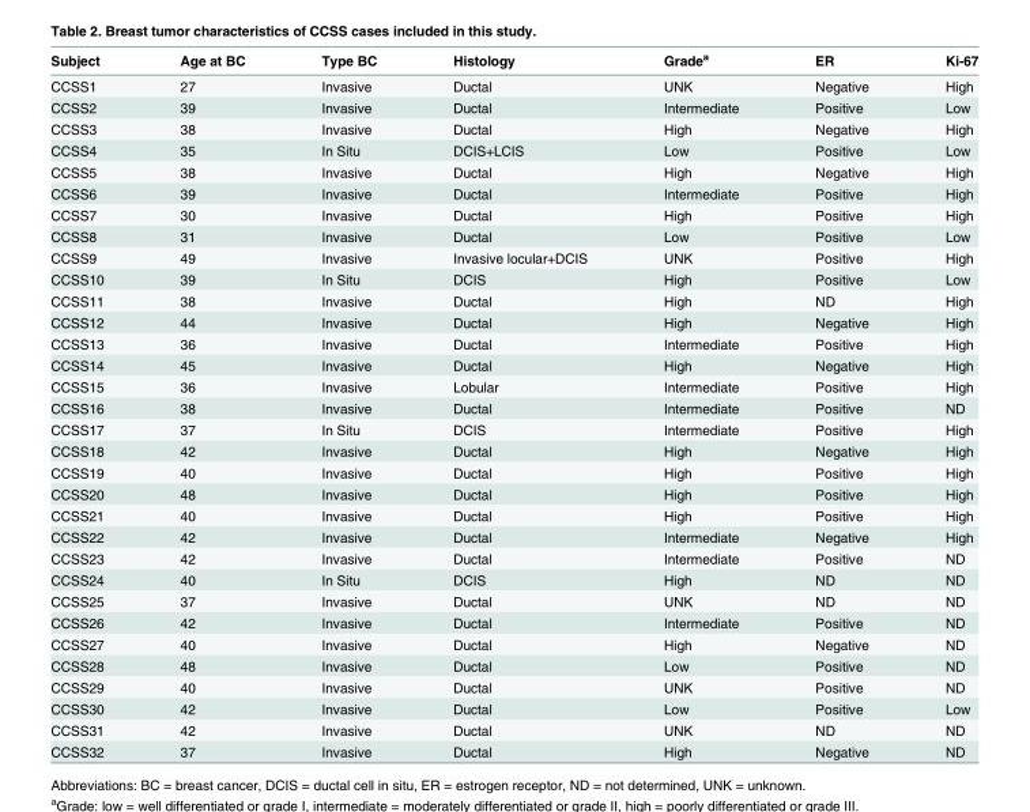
<table><thead><tr><td>Subject</td><td>Age at BC</td><td>Type BC</td><td>Histology</td><td>Grade<sup>a</sup></td><td>ER</td><td>Ki-67</td></tr></thead><tbody><tr><td>CCSS1</td><td>27</td><td>Invasive</td><td>Ductal</td><td>UNK</td><td>Negative</td><td>High</td></tr><tr><td>CCSS2</td><td>39</td><td>Invasive</td><td>Ductal</td><td>Intermediate</td><td>Positive</td><td>Low</td></tr><tr><td>CCSS3</td><td>38</td><td>Invasive</td><td>Ductal</td><td>High</td><td>Negative</td><td>High</td></tr><tr><td>CCSS4</td><td>35</td><td>In Situ</td><td>DCIS+LCIS</td><td>Low</td><td>Positive</td><td>Low</td></tr><tr><td>CCSS5</td><td>38</td><td>Invasive</td><td>Ductal</td><td>High</td><td>Negative</td><td>High</td></tr><tr><td>CCSS6</td><td>39</td><td>Invasive</td><td>Ductal</td><td>Intermediate</td><td>Positive</td><td>High</td></tr><tr><td>CCSS7</td><td>30</td><td>Invasive</td><td>Ductal</td><td>High</td><td>Positive</td><td>High</td></tr><tr><td>CCSS8</td><td>31</td><td>Invasive</td><td>Ductal</td><td>Low</td><td>Positive</td><td>Low</td></tr><tr><td>CCSS9</td><td>49</td><td>Invasive</td><td>Invasive locular+DCIS</td><td>UNK</td><td>Positive</td><td>High</td></tr><tr><td>CCSS10</td><td>39</td><td>In Situ</td><td>DCIS</td><td>High</td><td>Positive</td><td>Low</td></tr><tr><td>CCSS11</td><td>38</td><td>Invasive</td><td>Ductal</td><td>High</td><td>ND</td><td>High</td></tr><tr><td>CCSS12</td><td>44</td><td>Invasive</td><td>Ductal</td><td>High</td><td>Negative</td><td>High</td></tr><tr><td>CCSS13</td><td>36</td><td>Invasive</td><td>Ductal</td><td>Intermediate</td><td>Positive</td><td>High</td></tr><tr><td>CCSS14</td><td>45</td><td>Invasive</td><td>Ductal</td><td>High</td><td>Negative</td><td>High</td></tr><tr><td>CCSS15</td><td>36</td><td>Invasive</td><td>Lobular</td><td>Intermediate</td><td>Positive</td><td>High</td></tr><tr><td>CCSS16</td><td>38</td><td>Invasive</td><td>Ductal</td><td>Intermediate</td><td>Positive</td><td>ND</td></tr><tr><td>CCSS17</td><td>37</td><td>In Situ</td><td>DCIS</td><td>Intermediate</td><td>Positive</td><td>High</td></tr><tr><td>CCSS18</td><td>42</td><td>Invasive</td><td>Ductal</td><td>High</td><td>Negative</td><td>High</td></tr><tr><td>CCSS19</td><td>40</td><td>Invasive</td><td>Ductal</td><td>High</td><td>Positive</td><td>High</td></tr><tr><td>CCSS20</td><td>48</td><td>Invasive</td><td>Ductal</td><td>High</td><td>Positive</td><td>High</td></tr><tr><td>CCSS21</td><td>40</td><td>Invasive</td><td>Ductal</td><td>High</td><td>Positive</td><td>High</td></tr><tr><td>CCSS22</td><td>42</td><td>Invasive</td><td>Ductal</td><td>Intermediate</td><td>Negative</td><td>High</td></tr><tr><td>CCSS23</td><td>42</td><td>Invasive</td><td>Ductal</td><td>Intermediate</td><td>Positive</td><td>ND</td></tr><tr><td>CCSS24</td><td>40</td><td>In Situ</td><td>DCIS</td><td>High</td><td>ND</td><td>ND</td></tr><tr><td>CCSS25</td><td>37</td><td>Invasive</td><td>Ductal</td><td>UNK</td><td>ND</td><td>ND</td></tr><tr><td>CCSS26</td><td>42</td><td>Invasive</td><td>Ductal</td><td>Intermediate</td><td>Positive</td><td>ND</td></tr><tr><td>CCSS27</td><td>40</td><td>Invasive</td><td>Ductal</td><td>High</td><td>Negative</td><td>ND</td></tr><tr><td>CCSS28</td><td>48</td><td>Invasive</td><td>Ductal</td><td>Low</td><td>Positive</td><td>ND</td></tr><tr><td>CCSS29</td><td>40</td><td>Invasive</td><td>Ductal</td><td>UNK</td><td>Positive</td><td>ND</td></tr><tr><td>CCSS30</td><td>42</td><td>Invasive</td><td>Ductal</td><td>Low</td><td>Positive</td><td>Low</td></tr><tr><td>CCSS31</td><td>42</td><td>Invasive</td><td>Ductal</td><td>UNK</td><td>ND</td><td>ND</td></tr><tr><td>CCSS32</td><td>37</td><td>Invasive</td><td>Ductal</td><td>High</td><td>Negative</td><td>ND</td></tr></tbody></table>